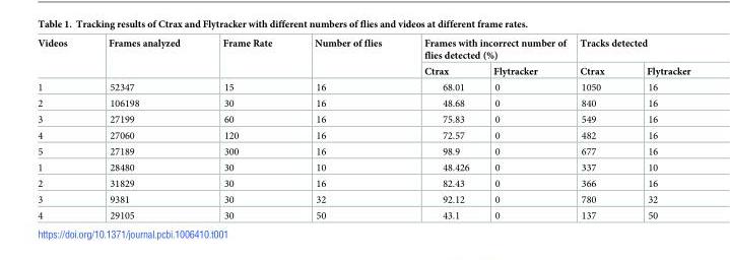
<table><thead><tr><td rowspan="2">Videos</td><td rowspan="2">Frames analyzed</td><td rowspan="2">Frame Rate</td><td rowspan="2">Number of flies</td><td colspan="2">Frames with incorrect number of flies detected (%)</td><td colspan="2">Tracks detected</td></tr><tr><td>Ctrax</td><td>Flytracker</td><td>Ctrax</td><td>Flytracker</td></tr></thead><tbody><tr><td>1</td><td>52347</td><td>15</td><td>16</td><td>68.01</td><td>0</td><td>1050</td><td>16</td></tr><tr><td>2</td><td>106198</td><td>30</td><td>16</td><td>48.68</td><td>0</td><td>840</td><td>16</td></tr><tr><td>3</td><td>27199</td><td>60</td><td>16</td><td>75.83</td><td>0</td><td>549</td><td>16</td></tr><tr><td>4</td><td>27060</td><td>120</td><td>16</td><td>72.57</td><td>0</td><td>482</td><td>16</td></tr><tr><td>5</td><td>27189</td><td>300</td><td>16</td><td>98.9</td><td>0</td><td>677</td><td>16</td></tr><tr><td>1</td><td>28480</td><td>30</td><td>10</td><td>48.426</td><td>0</td><td>337</td><td>10</td></tr><tr><td>2</td><td>31829</td><td>30</td><td>16</td><td>82.43</td><td>0</td><td>366</td><td>16</td></tr><tr><td>3</td><td>9381</td><td>30</td><td>32</td><td>92.12</td><td>0</td><td>780</td><td>32</td></tr><tr><td>4</td><td>29105</td><td>30</td><td>50</td><td>43.1</td><td>0</td><td>137</td><td>50</td></tr></tbody></table>